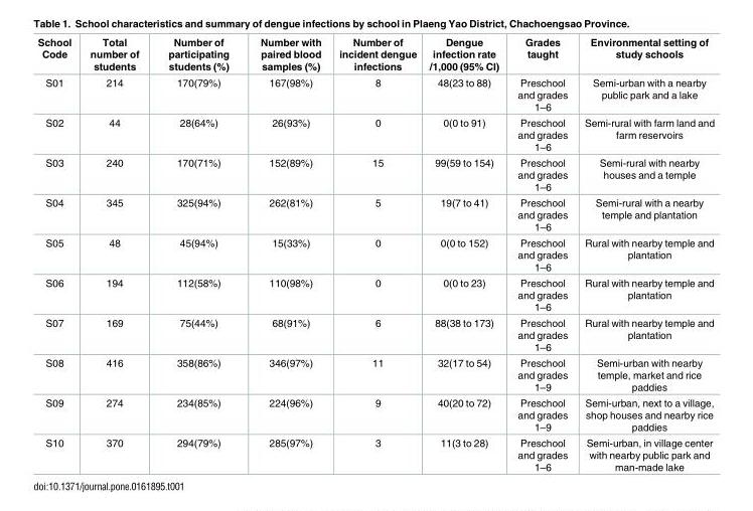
<table><thead><tr><td>School Code</td><td>Total number of students</td><td>Number of participating students (%)</td><td>Number with paired blood samples (%)</td><td>Number of incident dengue infections</td><td>Dengue infection rate /1,000 (95% CI)</td><td>Grades taught</td><td>Environmental setting of study schools</td></tr></thead><tbody><tr><td>S01</td><td>214</td><td>170(79%)</td><td>167(98%)</td><td>8</td><td>48(23 to 88)</td><td>Preschool and grades 1–6</td><td>Semi-urban with a nearby public park and a lake</td></tr><tr><td>S02</td><td>44</td><td>28(64%)</td><td>26(93%)</td><td>0</td><td>0(0 to 91)</td><td>Preschool and grades 1–6</td><td>Semi-rural with farm land and farm reservoirs</td></tr><tr><td>S03</td><td>240</td><td>170(71%)</td><td>152(89%)</td><td>15</td><td>99(59 to 154)</td><td>Preschool and grades 1–6</td><td>Semi-rural with nearby houses and a temple</td></tr><tr><td>S04</td><td>345</td><td>325(94%)</td><td>262(81%)</td><td>5</td><td>19(7 to 41)</td><td>Preschool and grades 1–6</td><td>Semi-rural with a nearby temple and plantation</td></tr><tr><td>S05</td><td>48</td><td>45(94%)</td><td>15(33%)</td><td>0</td><td>0(0 to 152)</td><td>Preschool and grades 1–6</td><td>Rural with nearby temple and plantation</td></tr><tr><td>S06</td><td>194</td><td>112(58%)</td><td>110(98%)</td><td>0</td><td>0(0 to 23)</td><td>Preschool and grades 1–6</td><td>Rural with nearby temple and plantation</td></tr><tr><td>S07</td><td>169</td><td>75(44%)</td><td>68(91%)</td><td>6</td><td>88(38 to 173)</td><td>Preschool and grades 1–6</td><td>Rural with nearby temple and plantation</td></tr><tr><td>S08</td><td>416</td><td>358(86%)</td><td>346(97%)</td><td>11</td><td>32(17 to 54)</td><td>Preschool and grades 1–9</td><td>Semi-urban with nearby temple, market and rice paddies</td></tr><tr><td>S09</td><td>274</td><td>234(85%)</td><td>224(96%)</td><td>9</td><td>40(20 to 72)</td><td>Preschool and grades 1–9</td><td>Semi-urban, next to a village, shop houses and nearby rice paddies</td></tr><tr><td>S10</td><td>370</td><td>294(79%)</td><td>285(97%)</td><td>3</td><td>11(3 to 28)</td><td>Preschool and grades 1–6</td><td>Semi-urban, in village center with nearby public park and man-made lake</td></tr></tbody></table>